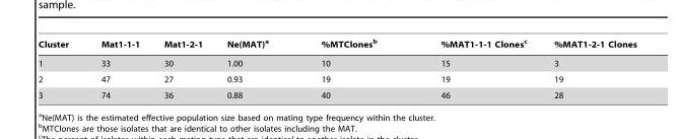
<table><thead><tr><td>Cluster</td><td>Mat1-1-1</td><td>Mat1-2-1</td><td>Ne(MAT)<sup>a</sup></td><td>%MTClones<sup>b</sup></td><td>%MAT1-1-1 Clones<sup>c</sup></td><td>%MAT1-2-1 Clones</td></tr></thead><tbody><tr><td>1</td><td>33</td><td>30</td><td>1.00</td><td>10</td><td>15</td><td>3</td></tr><tr><td>2</td><td>47</td><td>27</td><td>0.93</td><td>19</td><td>19</td><td>19</td></tr><tr><td>3</td><td>74</td><td>36</td><td>0.88</td><td>40</td><td>46</td><td>28</td></tr></tbody></table>